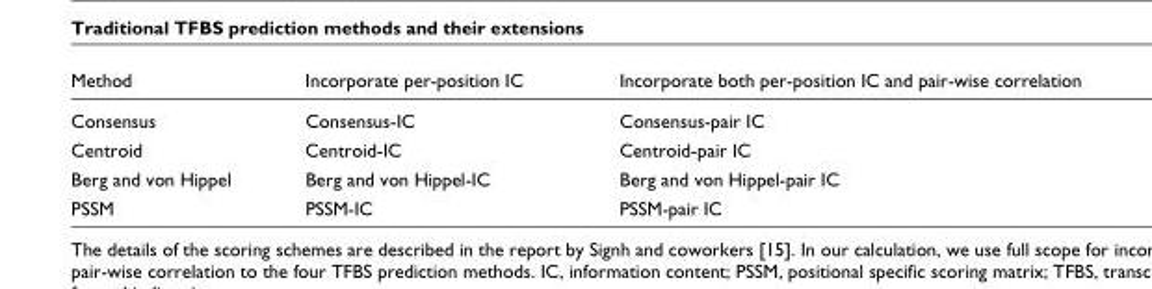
<table><thead><tr><td>Method</td><td>Incorporate per-position IC</td><td>Incorporate both per-position IC and pair-wise correlation</td></tr></thead><tbody><tr><td>Consensus</td><td>Consensus-IC</td><td>Consensus-pair IC</td></tr><tr><td>Centroid</td><td>Centroid-IC</td><td>Centroid-pair IC</td></tr><tr><td>Berg and von Hippel</td><td>Berg and von Hippel-IC</td><td>Berg and von Hippel-pair IC</td></tr><tr><td>PSSM</td><td>PSSM-IC</td><td>PSSM-pair IC</td></tr></tbody></table>